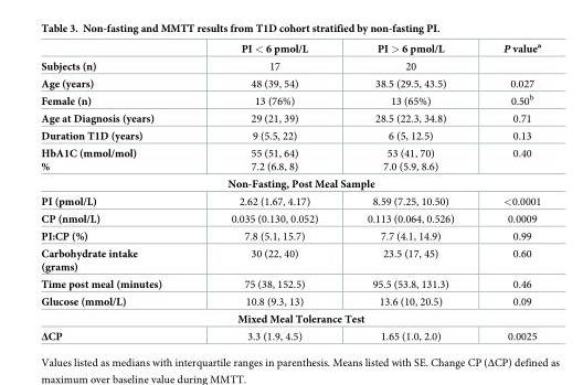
<table><thead><tr><td></td><td>PI &lt; 6 pmol/L</td><td>PI &gt; 6 pmol/L</td><td>P value<sup>a</sup></td></tr></thead><tbody><tr><td>Subjects (n)</td><td>17</td><td>20</td><td></td></tr><tr><td>Age (years)</td><td>48 (39, 54)</td><td>38.5 (29.5, 43.5)</td><td>0.027</td></tr><tr><td>Female (n)</td><td>13 (76%)</td><td>13 (65%)</td><td>0.50<sup>b</sup></td></tr><tr><td>Age at Diagnosis (years)</td><td>29 (21, 39)</td><td>28.5 (22.3, 34.8)</td><td>0.71</td></tr><tr><td>Duration T1D (years)</td><td>9 (5.5, 22)</td><td>6 (5, 12.5)</td><td>0.13</td></tr><tr><td>HbA1C (mmol/mol) %</td><td>55 (51, 64) 7.2 (6.8, 8)</td><td>53 (41, 70) 7.0 (5.9, 8.6)</td><td>0.40</td></tr><tr><td colspan="4">Non-Fasting, Post Meal Sample</td></tr><tr><td>PI (pmol/L)</td><td>2.62 (1.67, 4.17)</td><td>8.59 (7.25, 10.50)</td><td>&lt;0.0001</td></tr><tr><td>CP (nmol/L)</td><td>0.035 (0.130, 0.052)</td><td>0.113 (0.064, 0.526)</td><td>0.0009</td></tr><tr><td>PI:CP (%)</td><td>7.8 (5.1, 15.7)</td><td>7.7 (4.1, 14.9)</td><td>0.99</td></tr><tr><td>Carbohydrate intake (grams)</td><td>30 (22, 40)</td><td>23.5 (17, 45)</td><td>0.60</td></tr><tr><td>Time post meal (minutes)</td><td>75 (38, 152.5)</td><td>95.5 (53.8, 131.3)</td><td>0.46</td></tr><tr><td>Glucose (mmol/L)</td><td>10.8 (9.3, 13)</td><td>13.6 (10, 20.5)</td><td>0.09</td></tr><tr><td colspan="4">Mixed Meal Tolerance Test</td></tr><tr><td>ΔCP</td><td>3.3 (1.9, 4.5)</td><td>1.65 (1.0, 2.0)</td><td>0.0025</td></tr></tbody></table>